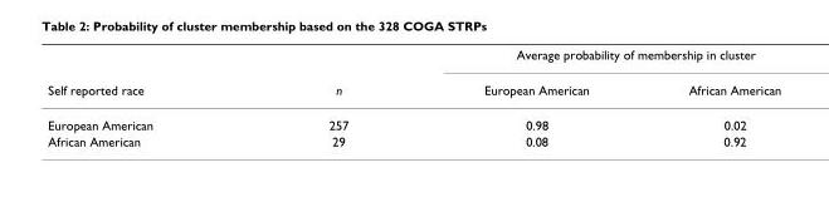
<table><thead><tr><td rowspan="2">Self reported race</td><td rowspan="2">n</td><td colspan="2">Average probability of membership in cluster</td></tr><tr><td>European American</td><td>African American</td></tr></thead><tbody><tr><td>European American</td><td>257</td><td>0.98</td><td>0.02</td></tr><tr><td>African American</td><td>29</td><td>0.08</td><td>0.92</td></tr></tbody></table>